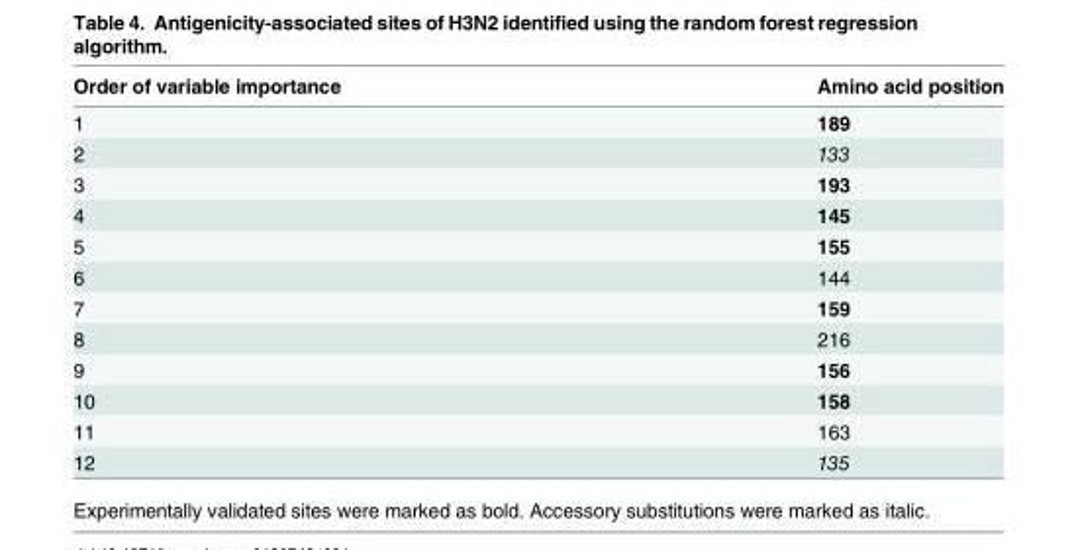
<table><thead><tr><td>Order of variable importance</td><td>Amino acid position</td></tr></thead><tbody><tr><td>1</td><td>189</td></tr><tr><td>2</td><td>133</td></tr><tr><td>3</td><td>193</td></tr><tr><td>4</td><td>145</td></tr><tr><td>5</td><td>155</td></tr><tr><td>6</td><td>144</td></tr><tr><td>7</td><td>159</td></tr><tr><td>8</td><td>216</td></tr><tr><td>9</td><td>156</td></tr><tr><td>10</td><td>158</td></tr><tr><td>11</td><td>163</td></tr><tr><td>12</td><td>135</td></tr></tbody></table>